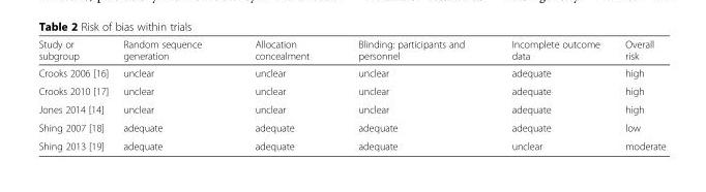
<table><thead><tr><td>Study or subgroup</td><td>Random sequence generation</td><td>Allocation concealment</td><td>Blinding: participants and personnel</td><td>Incomplete outcome data</td><td>Overall risk</td></tr></thead><tbody><tr><td>Crooks 2006 [16]</td><td>unclear</td><td>unclear</td><td>unclear</td><td>adequate</td><td>high</td></tr><tr><td>Crooks 2010 [17]</td><td>unclear</td><td>unclear</td><td>unclear</td><td>adequate</td><td>high</td></tr><tr><td>Jones 2014 [14]</td><td>unclear</td><td>unclear</td><td>unclear</td><td>adequate</td><td>high</td></tr><tr><td>Shing 2007 [18]</td><td>adequate</td><td>adequate</td><td>adequate</td><td>adequate</td><td>low</td></tr><tr><td>Shing 2013 [19]</td><td>adequate</td><td>adequate</td><td>adequate</td><td>unclear</td><td>moderate</td></tr></tbody></table>